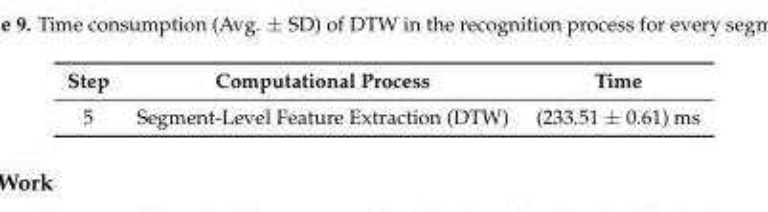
<table><thead><tr><td>Step</td><td>Computational Process</td><td>Time</td></tr></thead><tbody><tr><td>5</td><td>Segment-Level Feature Extraction (DTW)</td><td>(233.51 ± 0.61) ms</td></tr></tbody></table>